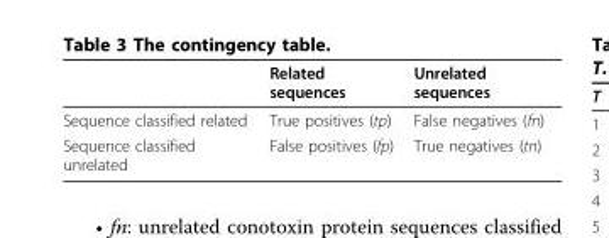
<table><thead><tr><td></td><td>Related sequences</td><td>Unrelated sequences</td></tr></thead><tbody><tr><td>Sequence classified related</td><td>True positives (tp)</td><td>False negatives (fn)</td></tr><tr><td>Sequence classified unrelated</td><td>False positives (fp)</td><td>True negatives (tn)</td></tr></tbody></table>